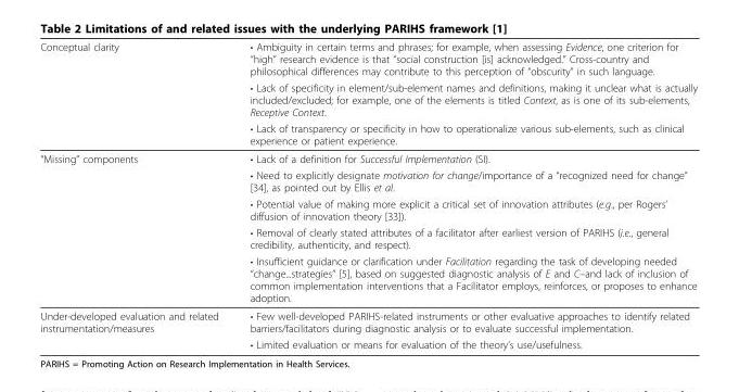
<table><thead><tr><td rowspan="3">Conceptual clarity</td><td rowspan="3">• Ambiguity in certain terms and phrases; for example, when assessing Evidence, one criterion for “high” research evidence is that “social construction [is] acknowledged.” Cross-country and philosophical differences may contribute to this perception of “obscurity” in such language. • Lack of specificity in element/sub-element names and definitions, making it unclear what is actually included/excluded; for example, one of the elements is titled Context, as is one of its sub-elements, Receptive Context. • Lack of transparency or specificity in how to operationalize various sub-elements, such as clinical experience or patient experience.</td></tr><tr></tr><tr></tr></thead><tbody><tr><td rowspan="5">“Missing” components</td><td>• Lack of a definition for Successful Implementation (SI).</td></tr><tr><td>• Need to explicitly designate motivation for change/importance of a “recognized need for change” [34], as pointed out by Ellis et al.</td></tr><tr><td>• Potential value of making more explicit a critical set of innovation attributes (e.g., per Rogers’ diffusion of innovation theory [33]).</td></tr><tr><td>• Removal of clearly stated attributes of a facilitator after earliest version of PARIHS (i.e., general credibility, authenticity, and respect).</td></tr><tr><td>• Insufficient guidance or clarification under Facilitation regarding the task of developing needed “change...strategies” [5], based on suggested diagnostic analysis of E and C–and lack of inclusion of common implementation interventions that a Facilitator employs, reinforces, or proposes to enhance adoption.</td></tr><tr><td rowspan="2">Under-developed evaluation and related instrumentation/measures</td><td>• Few well-developed PARIHS-related instruments or other evaluative approaches to identify related barriers/facilitators during diagnostic analysis or to evaluate successful implementation.</td></tr><tr><td>• Limited evaluation or means for evaluation of the theory’s use/usefulness.</td></tr></tbody></table>